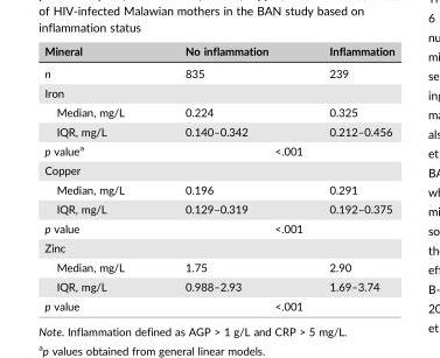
<table><thead><tr><td>Mineral</td><td>No inflammation</td><td>Inflammation</td></tr></thead><tbody><tr><td>n</td><td>835</td><td>239</td></tr><tr><td colspan="3">Iron</td></tr><tr><td>Median, mg/L</td><td>0.224</td><td>0.325</td></tr><tr><td>IQR, mg/L</td><td>0.140–0.342</td><td>0.212–0.456</td></tr><tr><td>p value<sup>a</sup></td><td colspan="2">&lt;.001</td></tr><tr><td colspan="3">Copper</td></tr><tr><td>Median, mg/L</td><td>0.196</td><td>0.291</td></tr><tr><td>IQR, mg/L</td><td>0.129–0.319</td><td>0.192–0.375</td></tr><tr><td>p value</td><td colspan="2">&lt;.001</td></tr><tr><td colspan="3">Zinc</td></tr><tr><td>Median, mg/L</td><td>1.75</td><td>2.90</td></tr><tr><td>IQR, mg/L</td><td>0.988–2.93</td><td>1.69–3.74</td></tr><tr><td>p value</td><td colspan="2">&lt;.001</td></tr></tbody></table>